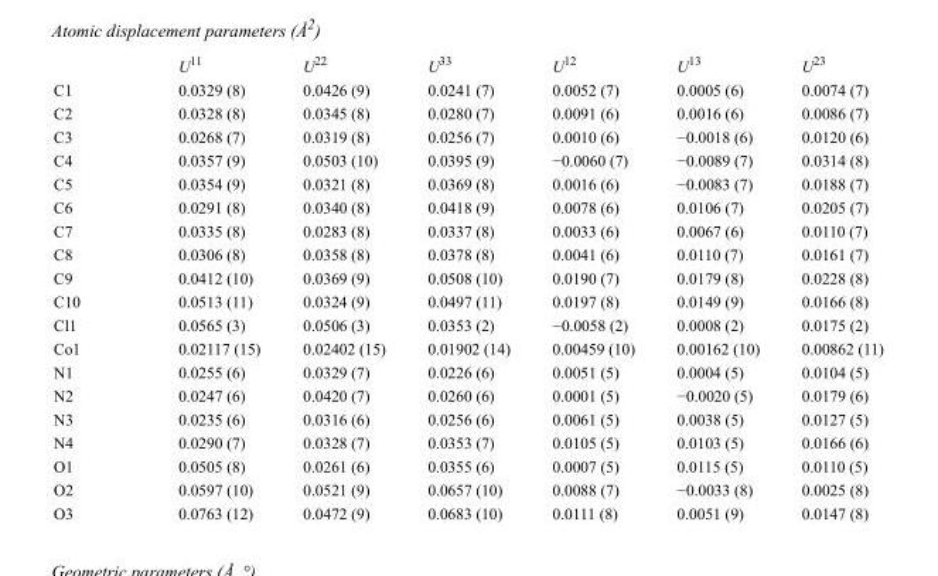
<table><thead><tr><td></td><td>U<sup>11</sup></td><td>U<sup>22</sup></td><td>U<sup>33</sup></td><td>U<sup>12</sup></td><td>U<sup>13</sup></td><td>U<sup>23</sup></td></tr></thead><tbody><tr><td>C1</td><td>0.0329 (8)</td><td>0.0426 (9)</td><td>0.0241 (7)</td><td>0.0052 (7)</td><td>0.0005 (6)</td><td>0.0074 (7)</td></tr><tr><td>C2</td><td>0.0328 (8)</td><td>0.0345 (8)</td><td>0.0280 (7)</td><td>0.0091 (6)</td><td>0.0016 (6)</td><td>0.0086 (7)</td></tr><tr><td>C3</td><td>0.0268 (7)</td><td>0.0319 (8)</td><td>0.0256 (7)</td><td>0.0010 (6)</td><td>−0.0018 (6)</td><td>0.0120 (6)</td></tr><tr><td>C4</td><td>0.0357 (9)</td><td>0.0503 (10)</td><td>0.0395 (9)</td><td>−0.0060 (7)</td><td>−0.0089 (7)</td><td>0.0314 (8)</td></tr><tr><td>C5</td><td>0.0354 (9)</td><td>0.0321 (8)</td><td>0.0369 (8)</td><td>0.0016 (6)</td><td>−0.0083 (7)</td><td>0.0188 (7)</td></tr><tr><td>C6</td><td>0.0291 (8)</td><td>0.0340 (8)</td><td>0.0418 (9)</td><td>0.0078 (6)</td><td>0.0106 (7)</td><td>0.0205 (7)</td></tr><tr><td>C7</td><td>0.0335 (8)</td><td>0.0283 (8)</td><td>0.0337 (8)</td><td>0.0033 (6)</td><td>0.0067 (6)</td><td>0.0110 (7)</td></tr><tr><td>C8</td><td>0.0306 (8)</td><td>0.0358 (8)</td><td>0.0378 (8)</td><td>0.0041 (6)</td><td>0.0110 (7)</td><td>0.0161 (7)</td></tr><tr><td>C9</td><td>0.0412 (10)</td><td>0.0369 (9)</td><td>0.0508 (10)</td><td>0.0190 (7)</td><td>0.0179 (8)</td><td>0.0228 (8)</td></tr><tr><td>C10</td><td>0.0513 (11)</td><td>0.0324 (9)</td><td>0.0497 (11)</td><td>0.0197 (8)</td><td>0.0149 (9)</td><td>0.0166 (8)</td></tr><tr><td>Cl1</td><td>0.0565 (3)</td><td>0.0506 (3)</td><td>0.0353 (2)</td><td>−0.0058 (2)</td><td>0.0008 (2)</td><td>0.0175 (2)</td></tr><tr><td>Co1</td><td>0.02117 (15)</td><td>0.02402 (15)</td><td>0.01902 (14)</td><td>0.00459 (10)</td><td>0.00162 (10)</td><td>0.00862 (11)</td></tr><tr><td>N1</td><td>0.0255 (6)</td><td>0.0329 (7)</td><td>0.0226 (6)</td><td>0.0051 (5)</td><td>0.0004 (5)</td><td>0.0104 (5)</td></tr><tr><td>N2</td><td>0.0247 (6)</td><td>0.0420 (7)</td><td>0.0260 (6)</td><td>0.0001 (5)</td><td>−0.0020 (5)</td><td>0.0179 (6)</td></tr><tr><td>N3</td><td>0.0235 (6)</td><td>0.0316 (6)</td><td>0.0256 (6)</td><td>0.0061 (5)</td><td>0.0038 (5)</td><td>0.0127 (5)</td></tr><tr><td>N4</td><td>0.0290 (7)</td><td>0.0328 (7)</td><td>0.0353 (7)</td><td>0.0105 (5)</td><td>0.0103 (5)</td><td>0.0166 (6)</td></tr><tr><td>O1</td><td>0.0505 (8)</td><td>0.0261 (6)</td><td>0.0355 (6)</td><td>0.0007 (5)</td><td>0.0115 (5)</td><td>0.0110 (5)</td></tr><tr><td>O2</td><td>0.0597 (10)</td><td>0.0521 (9)</td><td>0.0657 (10)</td><td>0.0088 (7)</td><td>−0.0033 (8)</td><td>0.0025 (8)</td></tr><tr><td>O3</td><td>0.0763 (12)</td><td>0.0472 (9)</td><td>0.0683 (10)</td><td>0.0111 (8)</td><td>0.0051 (9)</td><td>0.0147 (8)</td></tr></tbody></table>